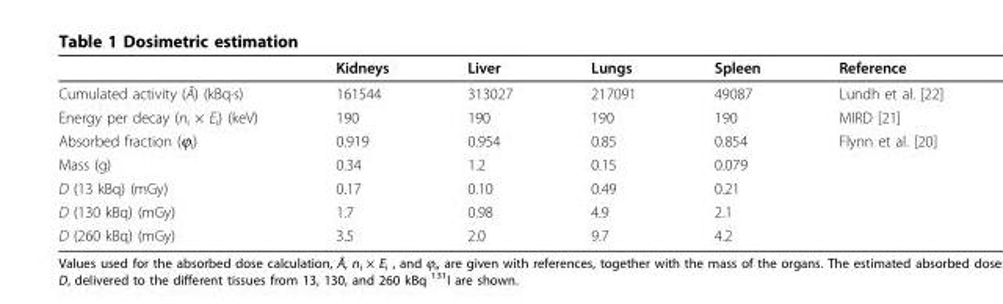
<table><thead><tr><td></td><td>Kidneys</td><td>Liver</td><td>Lungs</td><td>Spleen</td><td>Reference</td></tr></thead><tbody><tr><td>Cumulated activity (Ã) (kBq·s)</td><td>161544</td><td>313027</td><td>217091</td><td>49087</td><td>Lundh et al. [22]</td></tr><tr><td>Energy per decay (n<sub>i</sub> × E<sub>i</sub>) (keV)</td><td>190</td><td>190</td><td>190</td><td>190</td><td>MIRD [21]</td></tr><tr><td>Absorbed fraction (ϕ<sub>i</sub>)</td><td>0.919</td><td>0.954</td><td>0.85</td><td>0.854</td><td>Flynn et al. [20]</td></tr><tr><td>Mass (g)</td><td>0.34</td><td>1.2</td><td>0.15</td><td>0.079</td><td></td></tr><tr><td>D (13 kBq) (mGy)</td><td>0.17</td><td>0.10</td><td>0.49</td><td>0.21</td><td></td></tr><tr><td>D (130 kBq) (mGy)</td><td>1.7</td><td>0.98</td><td>4.9</td><td>2.1</td><td></td></tr><tr><td>D (260 kBq) (mGy)</td><td>3.5</td><td>2.0</td><td>9.7</td><td>4.2</td><td></td></tr></tbody></table>